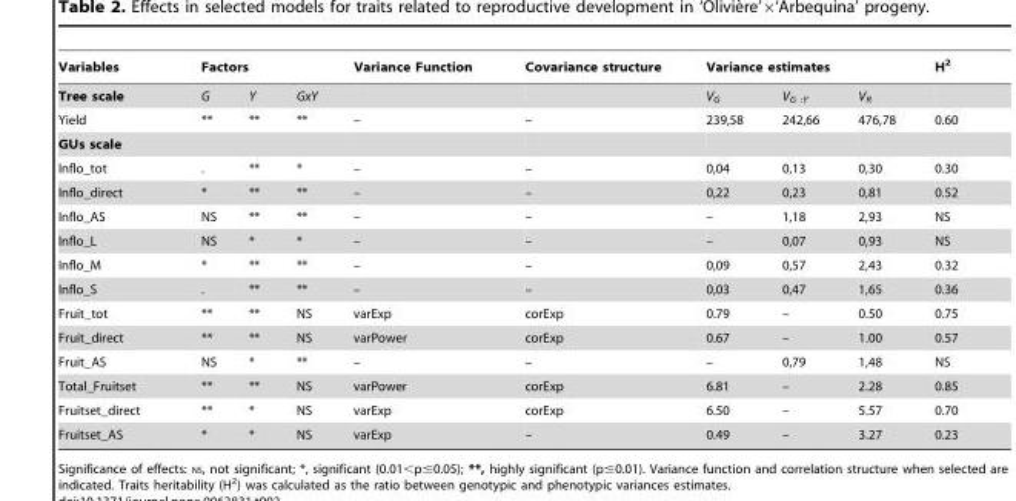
<table><thead><tr><td rowspan="2">Variables Tree scale</td><td colspan="3">Factors</td><td rowspan="2">Variance Function</td><td rowspan="2">Covariance structure</td><td colspan="3">Variance estimates</td><td rowspan="2">H<sup>2</sup></td></tr><tr><td>G</td><td>Y</td><td>GxY</td><td>V<sub>G</sub></td><td>V<sub>G :Y</sub></td><td>V<sub>R</sub></td></tr></thead><tbody><tr><td>Yield</td><td>**</td><td>**</td><td>**</td><td>–</td><td>–</td><td>239,58</td><td>242,66</td><td>476,78</td><td>0.60</td></tr><tr><td colspan="10">GUs scale</td></tr><tr><td>Inflo_tot</td><td>.</td><td>**</td><td>*</td><td>–</td><td>–</td><td>0,04</td><td>0,13</td><td>0,30</td><td>0.30</td></tr><tr><td>Inflo_direct</td><td>*</td><td>**</td><td>**</td><td>–</td><td>–</td><td>0,22</td><td>0,23</td><td>0,81</td><td>0.52</td></tr><tr><td>Inflo_AS</td><td>NS</td><td>**</td><td>**</td><td>–</td><td>–</td><td>–</td><td>1,18</td><td>2,93</td><td>NS</td></tr><tr><td>Inflo_L</td><td>NS</td><td>*</td><td>*</td><td>–</td><td>–</td><td>–</td><td>0,07</td><td>0,93</td><td>NS</td></tr><tr><td>Inflo_M</td><td>*</td><td>**</td><td>**</td><td>–</td><td>–</td><td>0,09</td><td>0,57</td><td>2,43</td><td>0.32</td></tr><tr><td>Inflo_S</td><td>.</td><td>**</td><td>**</td><td>–</td><td>–</td><td>0,03</td><td>0,47</td><td>1,65</td><td>0.36</td></tr><tr><td>Fruit_tot</td><td>**</td><td>**</td><td>NS</td><td>varExp</td><td>corExp</td><td>0.79</td><td>–</td><td>0.50</td><td>0.75</td></tr><tr><td>Fruit_direct</td><td>**</td><td>**</td><td>NS</td><td>varPower</td><td>corExp</td><td>0.67</td><td>–</td><td>1.00</td><td>0.57</td></tr><tr><td>Fruit_AS</td><td>NS</td><td>*</td><td>**</td><td>–</td><td>–</td><td>–</td><td>0,79</td><td>1,48</td><td>NS</td></tr><tr><td>Total_Fruitset</td><td>**</td><td>**</td><td>NS</td><td>varPower</td><td>corExp</td><td>6.81</td><td>–</td><td>2.28</td><td>0.85</td></tr><tr><td>Fruitset_direct</td><td>**</td><td>*</td><td>NS</td><td>varExp</td><td>corExp</td><td>6.50</td><td>–</td><td>5.57</td><td>0.70</td></tr><tr><td>Fruitset_AS</td><td>*</td><td>*</td><td>NS</td><td>varExp</td><td>–</td><td>0.49</td><td>–</td><td>3.27</td><td>0.23</td></tr></tbody></table>